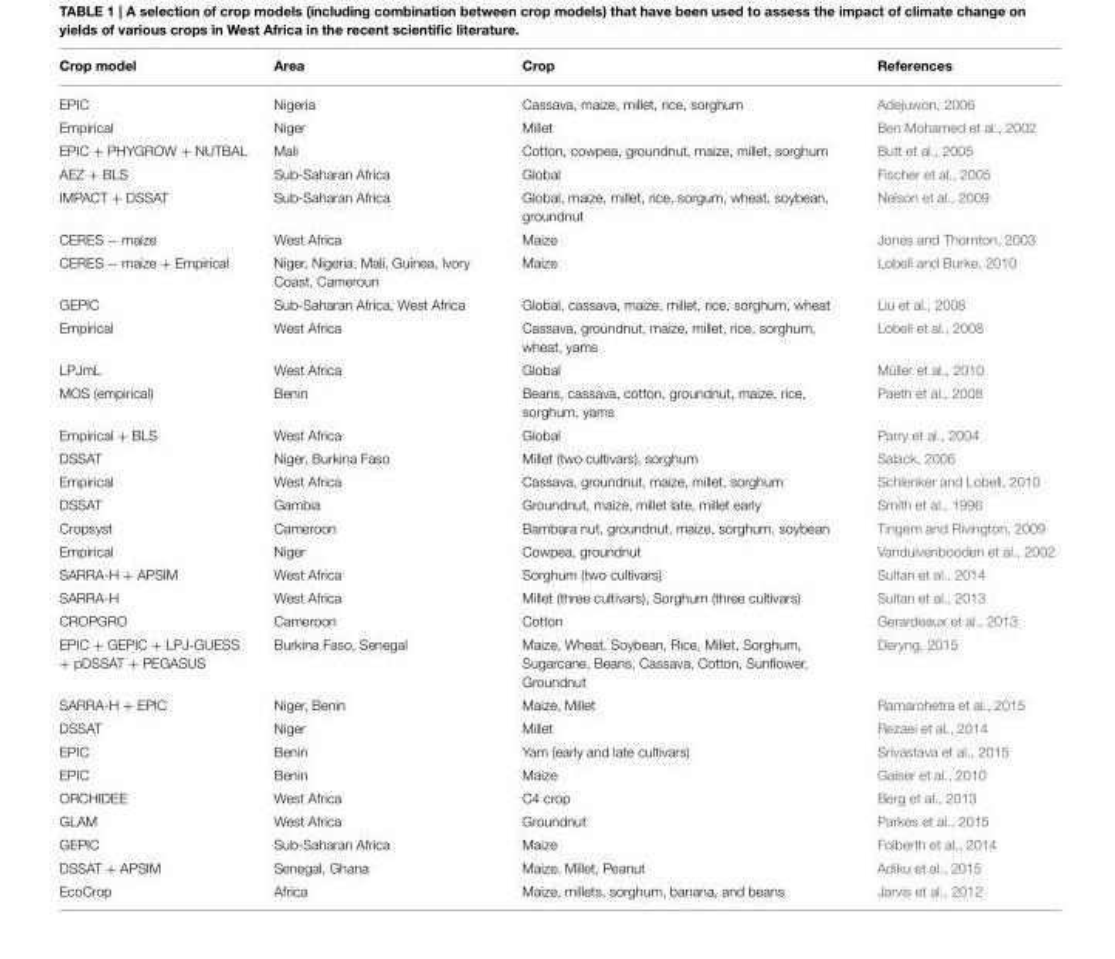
<table><thead><tr><td>Crop model</td><td>Area</td><td>Crop</td><td>References</td></tr></thead><tbody><tr><td>EPIC</td><td>Nigeria</td><td>Cassava, maize, millet, rice, sorghum</td><td>Adejuwon, 2006</td></tr><tr><td>Empirical</td><td>Niger</td><td>Millet</td><td>Ben Mohamed et al., 2002</td></tr><tr><td>EPIC + PHYGROW + NUTBAL</td><td>Mali</td><td>Cotton, cowpea, groundnut, maize, millet, sorghum</td><td>Butt et al., 2005</td></tr><tr><td>AEZ + BLS</td><td>Sub-Saharan Africa</td><td>Global</td><td>Fischer et al., 2005</td></tr><tr><td>IMPACT + DSSAT</td><td>Sub-Saharan Africa</td><td>Global, maize, millet, rice, sorgum, wheat, soybean, groundnut</td><td>Nelson et al., 2009</td></tr><tr><td>CERES − maize</td><td>West Africa</td><td>Maize</td><td>Jones and Thornton, 2003</td></tr><tr><td>CERES − maize + Empirical</td><td>Niger, Nigeria, Mali, Guinea, Ivory Coast, Cameroun</td><td>Maize</td><td>Lobell and Burke, 2010</td></tr><tr><td>GEPIC</td><td>Sub-Saharan Africa, West Africa</td><td>Global, cassava, maize, millet, rice, sorghum, wheat</td><td>Liu et al., 2008</td></tr><tr><td>Empirical</td><td>West Africa</td><td>Cassava, groundnut, maize, millet, rice, sorghum, wheat, yams</td><td>Lobell et al., 2008</td></tr><tr><td>LPJmL</td><td>West Africa</td><td>Global</td><td>Müller et al., 2010</td></tr><tr><td>MOS (empirical)</td><td>Benin</td><td>Beans, cassava, cotton, groundnut, maize, rice, sorghum, yams</td><td>Paeth et al., 2008</td></tr><tr><td>Empirical + BLS</td><td>West Africa</td><td>Global</td><td>Parry et al., 2004</td></tr><tr><td>DSSAT</td><td>Niger, Burkina Faso</td><td>Millet (two cultivars), sorghum</td><td>Salack, 2006</td></tr><tr><td>Empirical</td><td>West Africa</td><td>Cassava, groundnut, maize, millet, sorghum</td><td>Schlenker and Lobell, 2010</td></tr><tr><td>DSSAT</td><td>Gambia</td><td>Groundnut, maize, millet late, millet early</td><td>Smith et al., 1996</td></tr><tr><td>Cropsyst</td><td>Cameroon</td><td>Bambara nut, groundnut, maize, sorghum, soybean</td><td>Tingem and Rivington, 2009</td></tr><tr><td>Empirical</td><td>Niger</td><td>Cowpea, groundnut</td><td>Vanduivenbooden et al., 2002</td></tr><tr><td>SARRA-H + APSIM</td><td>West Africa</td><td>Sorghum (two cultivars)</td><td>Sultan et al., 2014</td></tr><tr><td>SARRA-H</td><td>West Africa</td><td>Millet (three cultivars), Sorghum (three cultivars)</td><td>Sultan et al., 2013</td></tr><tr><td>CROPGRO</td><td>Cameroon</td><td>Cotton</td><td>Gerardeaux et al., 2013</td></tr><tr><td>EPIC + GEPIC + LPJ-GUESS + pDSSAT + PEGASUS</td><td>Burkina Faso, Senegal</td><td>Maize, Wheat, Soybean, Rice, Millet, Sorghum, Sugarcane, Beans, Cassava, Cotton, Sunflower, Groundnut</td><td>Deryng, 2015</td></tr><tr><td>SARRA-H + EPIC</td><td>Niger, Benin</td><td>Maize, Millet</td><td>Ramarohetra et al., 2015</td></tr><tr><td>DSSAT</td><td>Niger</td><td>Millet</td><td>Rezaei et al., 2014</td></tr><tr><td>EPIC</td><td>Benin</td><td>Yam (early and late cultivars)</td><td>Srivastava et al., 2015</td></tr><tr><td>EPIC</td><td>Benin</td><td>Maize</td><td>Gaiser et al., 2010</td></tr><tr><td>ORCHIDEE</td><td>West Africa</td><td>C4 crop</td><td>Berg et al., 2013</td></tr><tr><td>GLAM</td><td>West Africa</td><td>Groundnut</td><td>Parkes et al., 2015</td></tr><tr><td>GEPIC</td><td>Sub-Saharan Africa</td><td>Maize</td><td>Folberth et al., 2014</td></tr><tr><td>DSSAT + APSIM</td><td>Senegal, Ghana</td><td>Maize, Millet, Peanut</td><td>Adiku et al., 2015</td></tr><tr><td>EcoCrop</td><td>Africa</td><td>Maize, millets, sorghum, banana, and beans</td><td>Jarvis et al., 2012</td></tr></tbody></table>